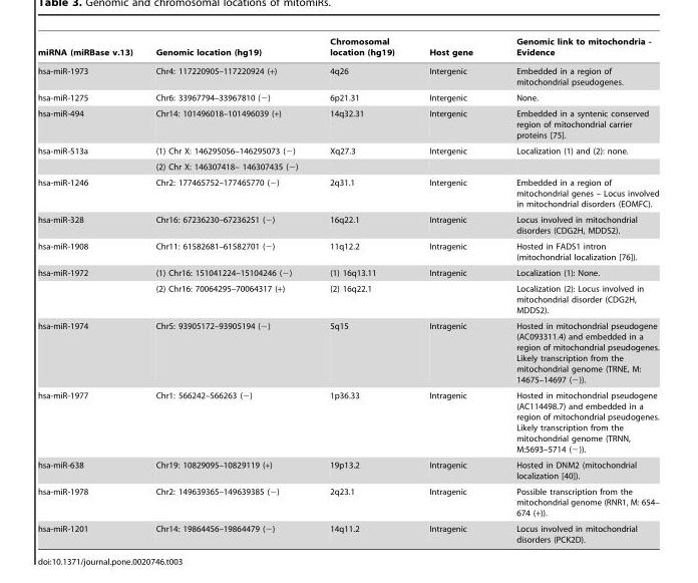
<table><thead><tr><td>miRNA (miRBase v.13)</td><td>Genomic location (hg19)</td><td>Chromosomal location (hg19)</td><td>Host gene</td><td>Genomic link to mitochondria - Evidence</td></tr></thead><tbody><tr><td>hsa-miR-1973</td><td>Chr4: 117220905–117220924 (+)</td><td>4q26</td><td>Intergenic</td><td>Embedded in a region of mitochondrial pseudogenes.</td></tr><tr><td>hsa-miR-1275</td><td>Chr6: 33967794–33967810 (−)</td><td>6p21.31</td><td>Intergenic</td><td>None.</td></tr><tr><td>hsa-miR-494</td><td>Chr14: 101496018–101496039 (+)</td><td>14q32.31</td><td>Intergenic</td><td>Embedded in a syntenic conserved region of mitochondrial carrier proteins [75].</td></tr><tr><td rowspan="2">hsa-miR-513a</td><td>(1) Chr X: 146295056–146295073 (−)</td><td>Xq27.3</td><td>Intergenic</td><td>Localization (1) and (2): none.</td></tr><tr><td>(2) Chr X: 146307418– 146307435 (−)</td><td></td><td></td><td></td></tr><tr><td>hsa-miR-1246</td><td>Chr2: 177465752–177465770 (−)</td><td>2q31.1</td><td>Intergenic</td><td>Embedded in a region of mitochondrial genes – Locus involved in mitochondrial disorders (EOMFC).</td></tr><tr><td>hsa-miR-328</td><td>Chr16: 67236230–67236251 (−)</td><td>16q22.1</td><td>Intragenic</td><td>Locus involved in mitochondrial disorders (CDG2H, MDDS2).</td></tr><tr><td>hsa-miR-1908</td><td>Chr11: 61582681–61582701 (−)</td><td>11q12.2</td><td>Intragenic</td><td>Hosted in FADS1 intron (mitochondrial localization [76]).</td></tr><tr><td rowspan="2">hsa-miR-1972</td><td>(1) Chr16: 151041224–15104246 (−)</td><td>(1) 16q13.11</td><td>Intragenic</td><td>Localization (1): None.</td></tr><tr><td>(2) Chr16: 70064295–70064317 (+)</td><td>(2) 16q22.1</td><td></td><td>Localization (2): Locus involved in mitochondrial disorder (CDG2H, MDDS2).</td></tr><tr><td>hsa-miR-1974</td><td>Chr5: 93905172–93905194 (−)</td><td>5q15</td><td>Intragenic</td><td>Hosted in mitochondrial pseudogene (AC093311.4) and embedded in a region of mitochondrial pseudogenes. Likely transcription from the mitochondrial genome (TRNE, M: 14675–14697 (−)).</td></tr><tr><td>hsa-miR-1977</td><td>Chr1: 566242–566263 (−)</td><td>1p36.33</td><td>Intragenic</td><td>Hosted in mitochondrial pseudogene (AC114498.7) and embedded in a region of mitochondrial pseudogenes. Likely transcription from the mitochondrial genome (TRNN, M:5693–5714 (−)).</td></tr><tr><td>hsa-miR-638</td><td>Chr19: 10829095–10829119 (+)</td><td>19p13.2</td><td>Intragenic</td><td>Hosted in DNM2 (mitochondrial localization [40]).</td></tr><tr><td>hsa-miR-1978</td><td>Chr2: 149639365–149639385 (−)</td><td>2q23.1</td><td>Intragenic</td><td>Possible transcription from the mitochondrial genome (RNR1, M: 654– 674 (+)).</td></tr><tr><td>hsa-miR-1201</td><td>Chr14: 19864456–19864479 (−)</td><td>14q11.2</td><td>Intragenic</td><td>Locus involved in mitochondrial disorders (PCK2D).</td></tr></tbody></table>